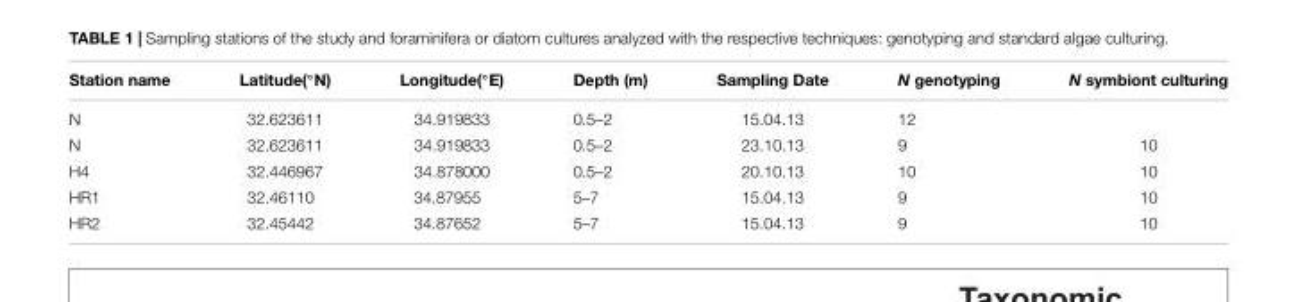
<table><thead><tr><td>Station name</td><td>Latitude(◦N)</td><td>Longitude(◦E)</td><td>Depth (m)</td><td>Sampling Date</td><td>N genotyping</td><td>N symbiont culturing</td></tr></thead><tbody><tr><td>N</td><td>32.623611</td><td>34.919833</td><td>0.5–2</td><td>15.04.13</td><td>12</td><td></td></tr><tr><td>N</td><td>32.623611</td><td>34.919833</td><td>0.5–2</td><td>23.10.13</td><td>9</td><td>10</td></tr><tr><td>H4</td><td>32.446967</td><td>34.878000</td><td>0.5–2</td><td>20.10.13</td><td>10</td><td>10</td></tr><tr><td>HR1</td><td>32.46110</td><td>34.87955</td><td>5–7</td><td>15.04.13</td><td>9</td><td>10</td></tr><tr><td>HR2</td><td>32.45442</td><td>34.87652</td><td>5–7</td><td>15.04.13</td><td>9</td><td>10</td></tr></tbody></table>